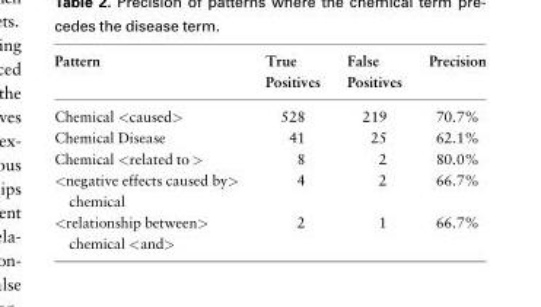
<table><thead><tr><td>Pattern</td><td>True Positives</td><td>False Positives</td><td>Precision</td></tr></thead><tbody><tr><td>Chemical &lt;caused&gt;</td><td>528</td><td>219</td><td>70.7%</td></tr><tr><td>Chemical Disease</td><td>41</td><td>25</td><td>62.1%</td></tr><tr><td>Chemical &lt;related to &gt;</td><td>8</td><td>2</td><td>80.0%</td></tr><tr><td>&lt;negative effects caused by&gt; chemical</td><td>4</td><td>2</td><td>66.7%</td></tr><tr><td>&lt;relationship between&gt; chemical &lt;and&gt;</td><td>2</td><td>1</td><td>66.7%</td></tr></tbody></table>